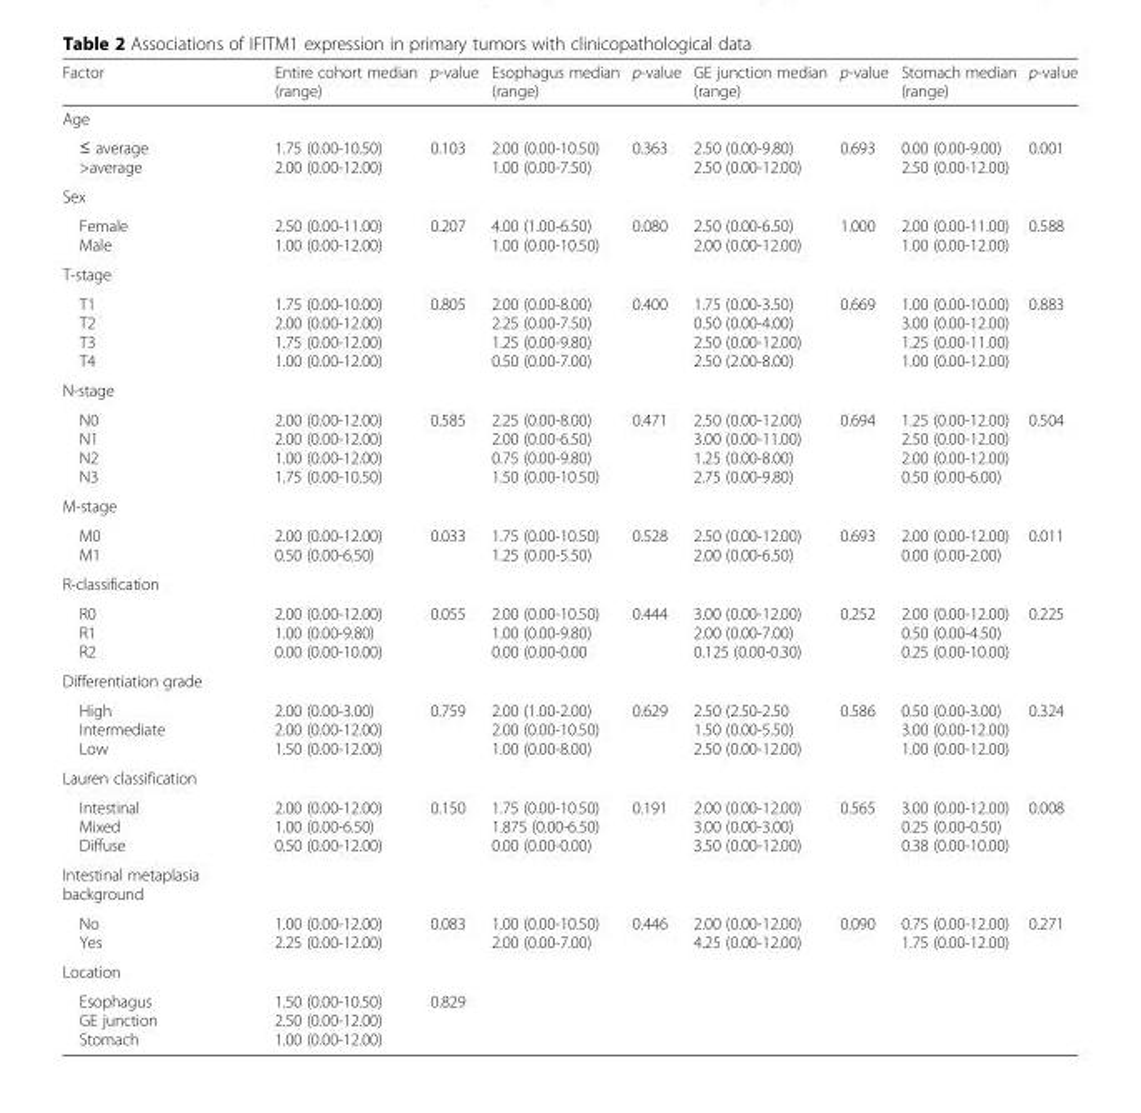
<table><thead><tr><td>Factor</td><td>Entire cohort median (range)</td><td>p-value</td><td>Esophagus median (range)</td><td>p-value</td><td>GE junction median (range)</td><td>p-value</td><td>Stomach median (range)</td><td>p-value</td></tr></thead><tbody><tr><td colspan="9">Age</td></tr><tr><td>≤ average &gt;average</td><td>1.75 (0.00-10.50) 2.00 (0.00-12.00)</td><td>0.103</td><td>2.00 (0.00-10.50) 1.00 (0.00-7.50)</td><td>0.363</td><td>2.50 (0.00-9.80) 2.50 (0.00-12.00)</td><td>0.693</td><td>0.00 (0.00-9.00) 2.50 (0.00-12.00)</td><td>0.001</td></tr><tr><td colspan="9">Sex</td></tr><tr><td>Female Male</td><td>2.50 (0.00-11.00) 1.00 (0.00-12.00)</td><td>0.207</td><td>4.00 (1.00-6.50) 1.00 (0.00-10.50)</td><td>0.080</td><td>2.50 (0.00-6.50) 2.00 (0.00-12.00)</td><td>1.000</td><td>2.00 (0.00-11.00) 1.00 (0.00-12.00)</td><td>0.588</td></tr><tr><td colspan="9">T-stage</td></tr><tr><td>T1 T2 T3 T4</td><td>1.75 (0.00-10.00) 2.00 (0.00-12.00) 1.75 (0.00-12.00) 1.00 (0.00-12.00)</td><td>0.805</td><td>2.00 (0.00-8.00) 2.25 (0.00-7.50) 1.25 (0.00-9.80) 0.50 (0.00-7.00)</td><td>0.400</td><td>1.75 (0.00-3.50) 0.50 (0.00-4.00) 2.50 (0.00-12.00) 2.50 (2.00-8.00)</td><td>0.669</td><td>1.00 (0.00-10.00) 3.00 (0.00-12.00) 1.25 (0.00-11.00) 1.00 (0.00-12.00)</td><td>0.883</td></tr><tr><td colspan="9">N-stage</td></tr><tr><td>N0 N1 N2 N3</td><td>2.00 (0.00-12.00) 2.00 (0.00-12.00) 1.00 (0.00-12.00) 1.75 (0.00-10.50)</td><td>0.585</td><td>2.25 (0.00-8.00) 2.00 (0.00-6.50) 0.75 (0.00-9.80) 1.50 (0.00-10.50)</td><td>0.471</td><td>2.50 (0.00-12.00) 3.00 (0.00-11.00) 1.25 (0.00-8.00) 2.75 (0.00-9.80)</td><td>0.694</td><td>1.25 (0.00-12.00) 2.50 (0.00-12.00) 2.00 (0.00-12.00) 0.50 (0.00-6.00)</td><td>0.504</td></tr><tr><td colspan="9">M-stage</td></tr><tr><td>M0 M1</td><td>2.00 (0.00-12.00) 0.50 (0.00-6.50)</td><td>0.033</td><td>1.75 (0.00-10.50) 1.25 (0.00-5.50)</td><td>0.528</td><td>2.50 (0.00-12.00) 2.00 (0.00-6.50)</td><td>0.693</td><td>2.00 (0.00-12.00) 0.00 (0.00-2.00)</td><td>0.011</td></tr><tr><td colspan="9">R-classification</td></tr><tr><td>R0 R1 R2</td><td>2.00 (0.00-12.00) 1.00 (0.00-9.80) 0.00 (0.00-10.00)</td><td>0.055</td><td>2.00 (0.00-10.50) 1.00 (0.00-9.80) 0.00 (0.00-0.00</td><td>0.444</td><td>3.00 (0.00-12.00) 2.00 (0.00-7.00) 0.125 (0.00-0.30)</td><td>0.252</td><td>2.00 (0.00-12.00) 0.50 (0.00-4.50) 0.25 (0.00-10.00)</td><td>0.225</td></tr><tr><td colspan="9">Differentiation grade</td></tr><tr><td>High Intermediate Low</td><td>2.00 (0.00-3.00) 2.00 (0.00-12.00) 1.50 (0.00-12.00)</td><td>0.759</td><td>2.00 (1.00-2.00) 2.00 (0.00-10.50) 1.00 (0.00-8.00)</td><td>0.629</td><td>2.50 (2.50-2.50 1.50 (0.00-5.50) 2.50 (0.00-12.00)</td><td>0.586</td><td>0.50 (0.00-3.00) 3.00 (0.00-12.00) 1.00 (0.00-12.00)</td><td>0.324</td></tr><tr><td colspan="9">Lauren classification</td></tr><tr><td>Intestinal Mixed Diffuse</td><td>2.00 (0.00-12.00) 1.00 (0.00-6.50) 0.50 (0.00-12.00)</td><td>0.150</td><td>1.75 (0.00-10.50) 1.875 (0.00-6.50) 0.00 (0.00-0.00)</td><td>0.191</td><td>2.00 (0.00-12.00) 3.00 (0.00-3.00) 3.50 (0.00-12.00)</td><td>0.565</td><td>3.00 (0.00-12.00) 0.25 (0.00-0.50) 0.38 (0.00-10.00)</td><td>0.008</td></tr><tr><td colspan="9">Intestinal metaplasia background</td></tr><tr><td>No Yes</td><td>1.00 (0.00-12.00) 2.25 (0.00-12.00)</td><td>0.083</td><td>1.00 (0.00-10.50) 2.00 (0.00-7.00)</td><td>0.446</td><td>2.00 (0.00-12.00) 4.25 (0.00-12.00)</td><td>0.090</td><td>0.75 (0.00-12.00) 1.75 (0.00-12.00)</td><td>0.271</td></tr><tr><td colspan="9">Location</td></tr><tr><td>Esophagus GE junction Stomach</td><td>1.50 (0.00-10.50) 2.50 (0.00-12.00) 1.00 (0.00-12.00)</td><td>0.829</td><td></td><td></td><td></td><td></td><td></td><td></td></tr></tbody></table>